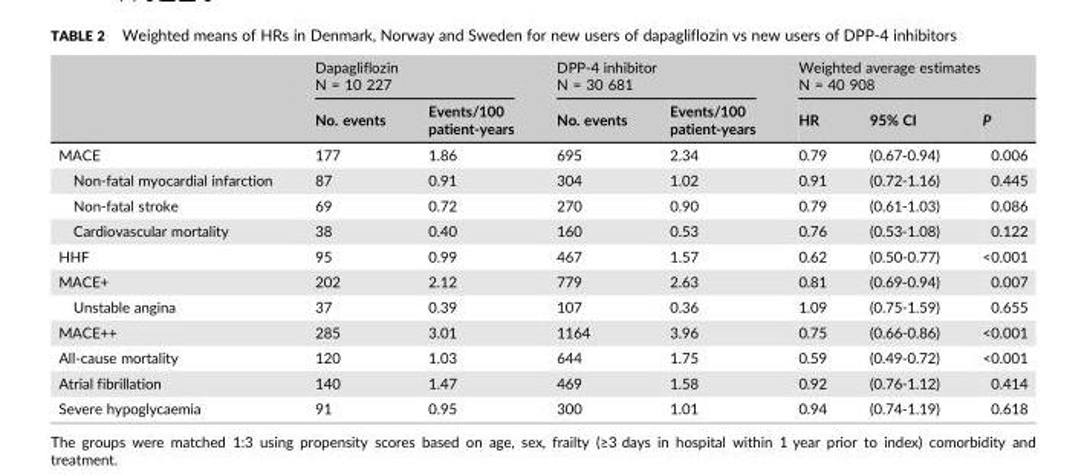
<table><thead><tr><td rowspan="2"></td><td colspan="2">Dapagliflozin N = 10 227</td><td colspan="2">DPP-4 inhibitor N = 30 681</td><td colspan="3">Weighted average estimates N = 40 908</td></tr><tr><td>No. events</td><td>Events/100 patient-years</td><td>No. events</td><td>Events/100 patient-years</td><td>HR</td><td>95% CI</td><td>P</td></tr></thead><tbody><tr><td>MACE</td><td>177</td><td>1.86</td><td>695</td><td>2.34</td><td>0.79</td><td>(0.67-0.94)</td><td>0.006</td></tr><tr><td>Non-fatal myocardial infarction</td><td>87</td><td>0.91</td><td>304</td><td>1.02</td><td>0.91</td><td>(0.72-1.16)</td><td>0.445</td></tr><tr><td>Non-fatal stroke</td><td>69</td><td>0.72</td><td>270</td><td>0.90</td><td>0.79</td><td>(0.61-1.03)</td><td>0.086</td></tr><tr><td>Cardiovascular mortality</td><td>38</td><td>0.40</td><td>160</td><td>0.53</td><td>0.76</td><td>(0.53-1.08)</td><td>0.122</td></tr><tr><td>HHF</td><td>95</td><td>0.99</td><td>467</td><td>1.57</td><td>0.62</td><td>(0.50-0.77)</td><td>&lt;0.001</td></tr><tr><td>MACE+</td><td>202</td><td>2.12</td><td>779</td><td>2.63</td><td>0.81</td><td>(0.69-0.94)</td><td>0.007</td></tr><tr><td>Unstable angina</td><td>37</td><td>0.39</td><td>107</td><td>0.36</td><td>1.09</td><td>(0.75-1.59)</td><td>0.655</td></tr><tr><td>MACE++</td><td>285</td><td>3.01</td><td>1164</td><td>3.96</td><td>0.75</td><td>(0.66-0.86)</td><td>&lt;0.001</td></tr><tr><td>All-cause mortality</td><td>120</td><td>1.03</td><td>644</td><td>1.75</td><td>0.59</td><td>(0.49-0.72)</td><td>&lt;0.001</td></tr><tr><td>Atrial fibrillation</td><td>140</td><td>1.47</td><td>469</td><td>1.58</td><td>0.92</td><td>(0.76-1.12)</td><td>0.414</td></tr><tr><td>Severe hypoglycaemia</td><td>91</td><td>0.95</td><td>300</td><td>1.01</td><td>0.94</td><td>(0.74-1.19)</td><td>0.618</td></tr></tbody></table>